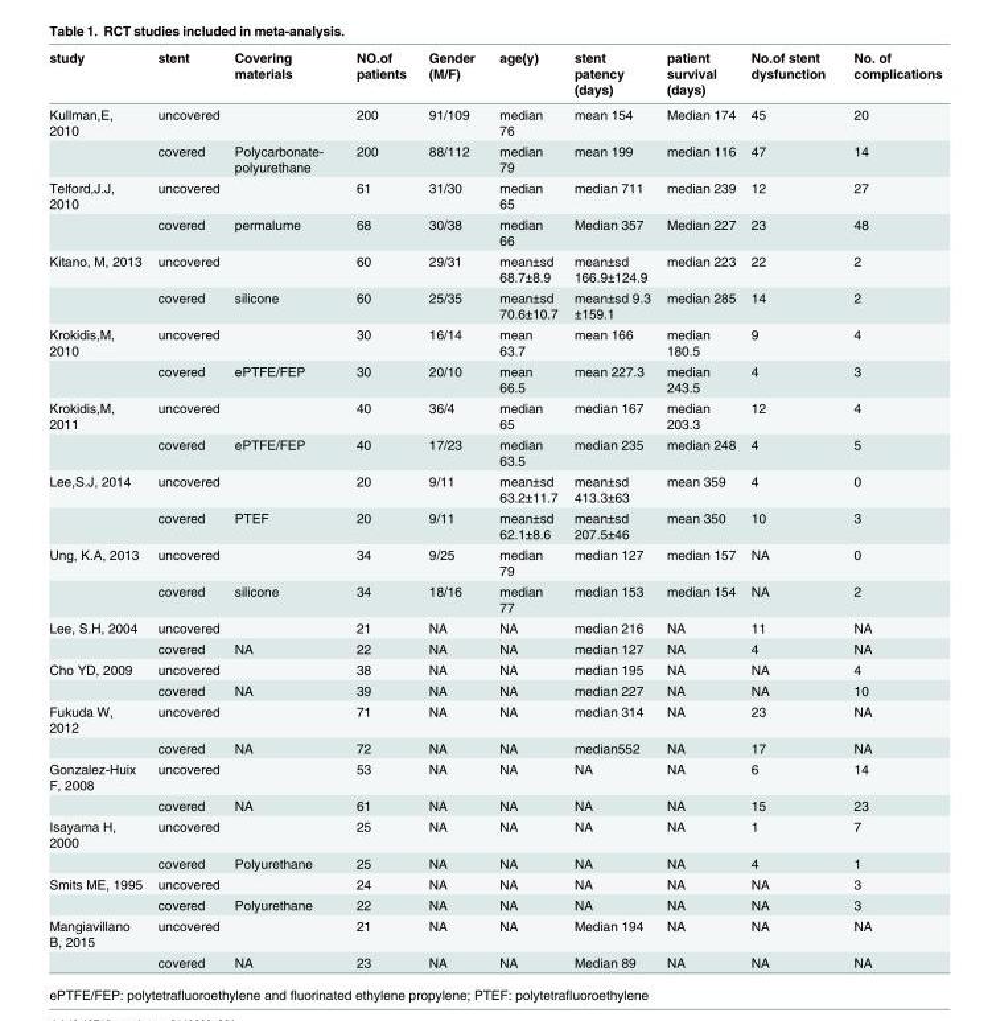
<table><thead><tr><td>study</td><td>stent</td><td>Covering materials</td><td>NO.of patients</td><td>Gender (M/F)</td><td>age(y)</td><td>stent patency (days)</td><td>patient survival (days)</td><td>No.of stent dysfunction</td><td>No. of complications</td></tr></thead><tbody><tr><td rowspan="2">Kullman,E, 2010</td><td>uncovered</td><td></td><td>200</td><td>91/109</td><td>median 76</td><td>mean 154</td><td>Median 174</td><td>45</td><td>20</td></tr><tr><td>covered</td><td>Polycarbonate- polyurethane</td><td>200</td><td>88/112</td><td>median 79</td><td>mean 199</td><td>median 116</td><td>47</td><td>14</td></tr><tr><td rowspan="2">Telford,J.J, 2010</td><td>uncovered</td><td></td><td>61</td><td>31/30</td><td>median 65</td><td>median 711</td><td>median 239</td><td>12</td><td>27</td></tr><tr><td>covered</td><td>permalume</td><td>68</td><td>30/38</td><td>median 66</td><td>Median 357</td><td>Median 227</td><td>23</td><td>48</td></tr><tr><td rowspan="2">Kitano, M, 2013</td><td>uncovered</td><td></td><td>60</td><td>29/31</td><td>mean±sd 68.7±8.9</td><td>mean±sd 166.9±124.9</td><td>median 223</td><td>22</td><td>2</td></tr><tr><td>covered</td><td>silicone</td><td>60</td><td>25/35</td><td>mean±sd 70.6±10.7</td><td>mean±sd 9.3 ±159.1</td><td>median 285</td><td>14</td><td>2</td></tr><tr><td rowspan="2">Krokidis,M, 2010</td><td>uncovered</td><td></td><td>30</td><td>16/14</td><td>mean 63.7</td><td>mean 166</td><td>median 180.5</td><td>9</td><td>4</td></tr><tr><td>covered</td><td>ePTFE/FEP</td><td>30</td><td>20/10</td><td>mean 66.5</td><td>mean 227.3</td><td>median 243.5</td><td>4</td><td>3</td></tr><tr><td rowspan="2">Krokidis,M, 2011</td><td>uncovered</td><td></td><td>40</td><td>36/4</td><td>median 65</td><td>median 167</td><td>median 203.3</td><td>12</td><td>4</td></tr><tr><td>covered</td><td>ePTFE/FEP</td><td>40</td><td>17/23</td><td>median 63.5</td><td>median 235</td><td>median 248</td><td>4</td><td>5</td></tr><tr><td rowspan="2">Lee,S.J, 2014</td><td>uncovered</td><td></td><td>20</td><td>9/11</td><td>mean±sd 63.2±11.7</td><td>mean±sd 413.3±63</td><td>mean 359</td><td>4</td><td>0</td></tr><tr><td>covered</td><td>PTEF</td><td>20</td><td>9/11</td><td>mean±sd 62.1±8.6</td><td>mean±sd 207.5±46</td><td>mean 350</td><td>10</td><td>3</td></tr><tr><td rowspan="2">Ung, K.A, 2013</td><td>uncovered</td><td></td><td>34</td><td>9/25</td><td>median 79</td><td>median 127</td><td>median 157</td><td>NA</td><td>0</td></tr><tr><td>covered</td><td>silicone</td><td>34</td><td>18/16</td><td>median 77</td><td>median 153</td><td>median 154</td><td>NA</td><td>2</td></tr><tr><td rowspan="2">Lee, S.H, 2004</td><td>uncovered</td><td></td><td>21</td><td>NA</td><td>NA</td><td>median 216</td><td>NA</td><td>11</td><td>NA</td></tr><tr><td>covered</td><td>NA</td><td>22</td><td>NA</td><td>NA</td><td>median 127</td><td>NA</td><td>4</td><td>NA</td></tr><tr><td rowspan="2">Cho YD, 2009</td><td>uncovered</td><td></td><td>38</td><td>NA</td><td>NA</td><td>median 195</td><td>NA</td><td>NA</td><td>4</td></tr><tr><td>covered</td><td>NA</td><td>39</td><td>NA</td><td>NA</td><td>median 227</td><td>NA</td><td>NA</td><td>10</td></tr><tr><td rowspan="2">Fukuda W, 2012</td><td>uncovered</td><td></td><td>71</td><td>NA</td><td>NA</td><td>median 314</td><td>NA</td><td>23</td><td>NA</td></tr><tr><td>covered</td><td>NA</td><td>72</td><td>NA</td><td>NA</td><td>median552</td><td>NA</td><td>17</td><td>NA</td></tr><tr><td rowspan="2">Gonzalez-Huix F, 2008</td><td>uncovered</td><td></td><td>53</td><td>NA</td><td>NA</td><td>NA</td><td>NA</td><td>6</td><td>14</td></tr><tr><td>covered</td><td>NA</td><td>61</td><td>NA</td><td>NA</td><td>NA</td><td>NA</td><td>15</td><td>23</td></tr><tr><td rowspan="2">Isayama H, 2000</td><td>uncovered</td><td></td><td>25</td><td>NA</td><td>NA</td><td>NA</td><td>NA</td><td>1</td><td>7</td></tr><tr><td>covered</td><td>Polyurethane</td><td>25</td><td>NA</td><td>NA</td><td>NA</td><td>NA</td><td>4</td><td>1</td></tr><tr><td rowspan="2">Smits ME, 1995</td><td>uncovered</td><td></td><td>24</td><td>NA</td><td>NA</td><td>NA</td><td>NA</td><td>NA</td><td>3</td></tr><tr><td>covered</td><td>Polyurethane</td><td>22</td><td>NA</td><td>NA</td><td>NA</td><td>NA</td><td>NA</td><td>3</td></tr><tr><td rowspan="2">Mangiavillano B, 2015</td><td>uncovered</td><td></td><td>21</td><td>NA</td><td>NA</td><td>Median 194</td><td>NA</td><td>NA</td><td>NA</td></tr><tr><td>covered</td><td>NA</td><td>23</td><td>NA</td><td>NA</td><td>Median 89</td><td>NA</td><td>NA</td><td>NA</td></tr></tbody></table>